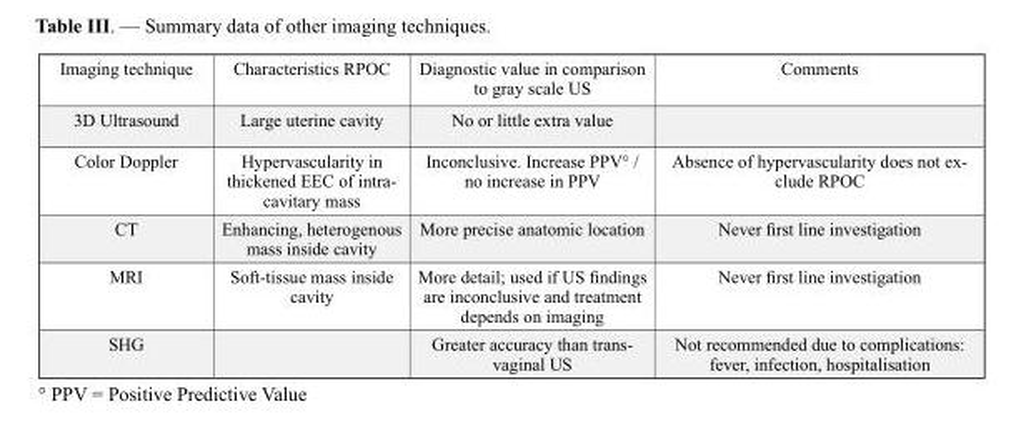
<table><thead><tr><td>Imaging technique</td><td>Characteristics RPOC</td><td>Diagnostic value in comparison to gray scale US</td><td>Comments</td></tr></thead><tbody><tr><td>3D Ultrasound</td><td>Large uterine cavity</td><td>No or little extra value</td><td></td></tr><tr><td>Color Doppler</td><td>Hypervascularity in thickened EEC of intra- cavitary mass</td><td>Inconclusive. Increase PPV° / no increase in PPV</td><td>Absence of hypervascularity does not ex- clude RPOC</td></tr><tr><td>CT</td><td>Enhancing, heterogenous mass inside cavity</td><td>More precise anatomic location</td><td>Never first line investigation</td></tr><tr><td>MRI</td><td>Soft-tissue mass inside cavity</td><td>More detail; used if US findings are inconclusive and treatment depends on imaging</td><td>Never first line investigation</td></tr><tr><td>SHG</td><td></td><td>Greater accuracy than trans- vaginal US</td><td>Not recommended due to complications: fever, infection, hospitalisation</td></tr></tbody></table>